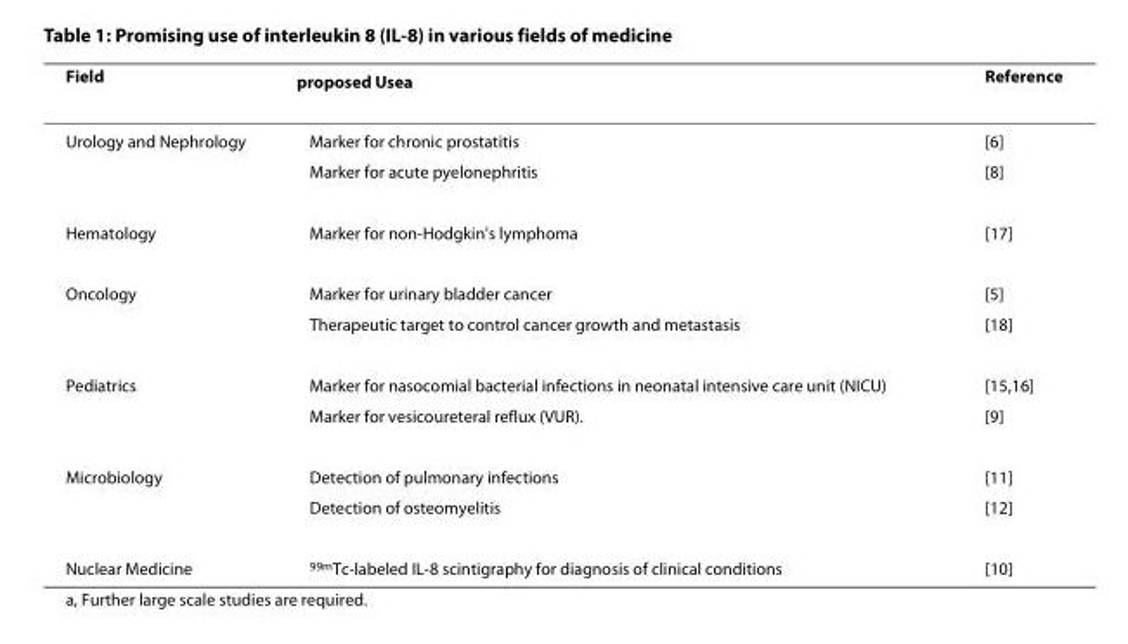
<table><thead><tr><td>Field</td><td>proposed Use<sup>a</sup></td><td>Reference</td></tr></thead><tbody><tr><td rowspan="2">Urology and Nephrology</td><td>Marker for chronic prostatitis</td><td>[6]</td></tr><tr><td>Marker for acute pyelonephritis</td><td>[8]</td></tr><tr><td>Hematology</td><td>Marker for non-Hodgkin&#x27;s lymphoma</td><td>[17]</td></tr><tr><td rowspan="2">Oncology</td><td>Marker for urinary bladder cancer</td><td>[5]</td></tr><tr><td>Therapeutic target to control cancer growth and metastasis</td><td>[18]</td></tr><tr><td rowspan="2">Pediatrics</td><td>Marker for nasocomial bacterial infections in neonatal intensive care unit (NICU)</td><td>[15,16]</td></tr><tr><td>Marker for vesicoureteral reflux (VUR).</td><td>[9]</td></tr><tr><td rowspan="2">Microbiology</td><td>Detection of pulmonary infections</td><td>[11]</td></tr><tr><td>Detection of osteomyelitis</td><td>[12]</td></tr><tr><td>Nuclear Medicine</td><td><sup>99m</sup>Tc-labeled IL-8 scintigraphy for diagnosis of clinical conditions</td><td>[10]</td></tr></tbody></table>